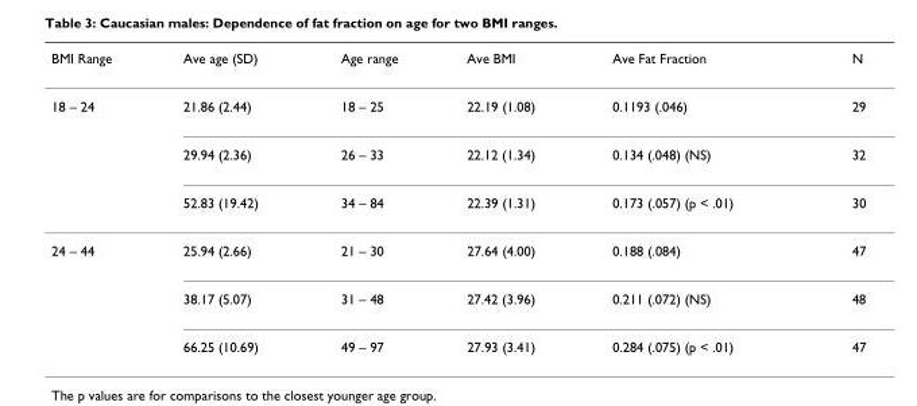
<table><thead><tr><td>BMI Range</td><td>Ave age (SD)</td><td>Age range</td><td>Ave BMI</td><td>Ave Fat Fraction</td><td>N</td></tr></thead><tbody><tr><td rowspan="3">18 – 24</td><td>21.86 (2.44)</td><td>18 – 25</td><td>22.19 (1.08)</td><td>0.1193 (.046)</td><td>29</td></tr><tr><td>29.94 (2.36)</td><td>26 – 33</td><td>22.12 (1.34)</td><td>0.134 (.048) (NS)</td><td>32</td></tr><tr><td>52.83 (19.42)</td><td>34 – 84</td><td>22.39 (1.31)</td><td>0.173 (.057) (p &lt; .01)</td><td>30</td></tr><tr><td rowspan="3">24 – 44</td><td>25.94 (2.66)</td><td>21 – 30</td><td>27.64 (4.00)</td><td>0.188 (.084)</td><td>47</td></tr><tr><td>38.17 (5.07)</td><td>31 – 48</td><td>27.42 (3.96)</td><td>0.211 (.072) (NS)</td><td>48</td></tr><tr><td>66.25 (10.69)</td><td>49 – 97</td><td>27.93 (3.41)</td><td>0.284 (.075) (p &lt; .01)</td><td>47</td></tr></tbody></table>